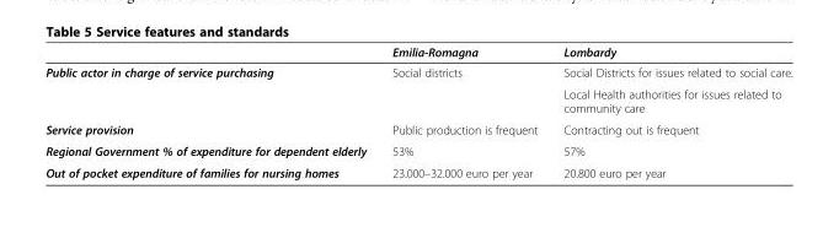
<table><thead><tr><td></td><td>Emilia-Romagna</td><td>Lombardy</td></tr></thead><tbody><tr><td rowspan="2">Public actor in charge of service purchasing</td><td rowspan="2">Social districts</td><td>Social Districts for issues related to social care.</td></tr><tr><td>Local Health authorities for issues related to community care</td></tr><tr><td>Service provision</td><td>Public production is frequent</td><td>Contracting out is frequent</td></tr><tr><td>Regional Government % of expenditure for dependent elderly</td><td>53%</td><td>57%</td></tr><tr><td>Out of pocket expenditure of families for nursing homes</td><td>23.000–32.000 euro per year</td><td>20.800 euro per year</td></tr></tbody></table>